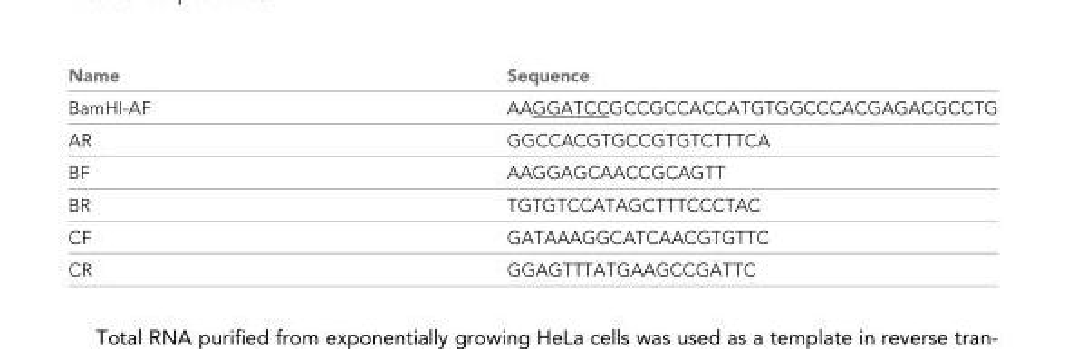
<table><thead><tr><td>Name</td><td>Sequence</td></tr></thead><tbody><tr><td>BamHI-AF</td><td>AAGGATCCGCCGCCACCATGTGGCCCACGAGACGCCTG</td></tr><tr><td>AR</td><td>GGCCACGTGCCGTGTCTTTCA</td></tr><tr><td>BF</td><td>AAGGAGCAACCGCAGTT</td></tr><tr><td>BR</td><td>TGTGTCCATAGCTTTCCCTAC</td></tr><tr><td>CF</td><td>GATAAAGGCATCAACGTGTTC</td></tr><tr><td>CR</td><td>GGAGTTTATGAAGCCGATTC</td></tr></tbody></table>